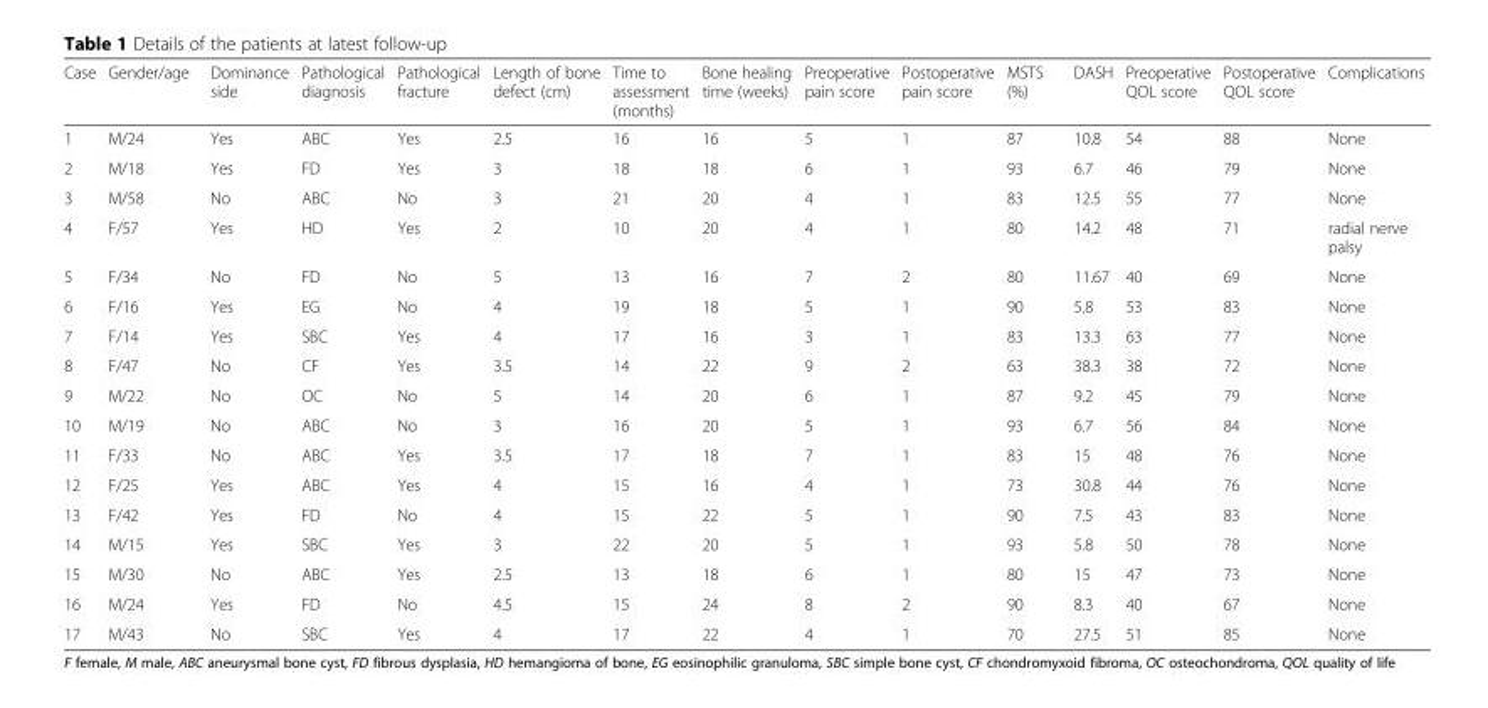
<table><thead><tr><td>Case</td><td>Gender/age</td><td>Dominance side</td><td>Pathological diagnosis</td><td>Pathological fracture</td><td>Length of bone defect (cm)</td><td>Time to assessment (months)</td><td>Bone healing time (weeks)</td><td>Preoperative pain score</td><td>Postoperative pain score</td><td>MSTS (%)</td><td>DASH</td><td>Preoperative QOL score</td><td>Postoperative QOL score</td><td>Complications</td></tr></thead><tbody><tr><td>1</td><td>M/24</td><td>Yes</td><td>ABC</td><td>Yes</td><td>2.5</td><td>16</td><td>16</td><td>5</td><td>1</td><td>87</td><td>10.8</td><td>54</td><td>88</td><td>None</td></tr><tr><td>2</td><td>M/18</td><td>Yes</td><td>FD</td><td>Yes</td><td>3</td><td>18</td><td>18</td><td>6</td><td>1</td><td>93</td><td>6.7</td><td>46</td><td>79</td><td>None</td></tr><tr><td>3</td><td>M/58</td><td>No</td><td>ABC</td><td>No</td><td>3</td><td>21</td><td>20</td><td>4</td><td>1</td><td>83</td><td>12.5</td><td>55</td><td>77</td><td>None</td></tr><tr><td>4</td><td>F/57</td><td>Yes</td><td>HD</td><td>Yes</td><td>2</td><td>10</td><td>20</td><td>4</td><td>1</td><td>80</td><td>14.2</td><td>48</td><td>71</td><td>radial nerve palsy</td></tr><tr><td>5</td><td>F/34</td><td>No</td><td>FD</td><td>No</td><td>5</td><td>13</td><td>16</td><td>7</td><td>2</td><td>80</td><td>11.67</td><td>40</td><td>69</td><td>None</td></tr><tr><td>6</td><td>F/16</td><td>Yes</td><td>EG</td><td>No</td><td>4</td><td>19</td><td>18</td><td>5</td><td>1</td><td>90</td><td>5.8</td><td>53</td><td>83</td><td>None</td></tr><tr><td>7</td><td>F/14</td><td>Yes</td><td>SBC</td><td>Yes</td><td>4</td><td>17</td><td>16</td><td>3</td><td>1</td><td>83</td><td>13.3</td><td>63</td><td>77</td><td>None</td></tr><tr><td>8</td><td>F/47</td><td>No</td><td>CF</td><td>Yes</td><td>3.5</td><td>14</td><td>22</td><td>9</td><td>2</td><td>63</td><td>38.3</td><td>38</td><td>72</td><td>None</td></tr><tr><td>9</td><td>M/22</td><td>No</td><td>OC</td><td>No</td><td>5</td><td>14</td><td>20</td><td>6</td><td>1</td><td>87</td><td>9.2</td><td>45</td><td>79</td><td>None</td></tr><tr><td>10</td><td>M/19</td><td>No</td><td>ABC</td><td>No</td><td>3</td><td>16</td><td>20</td><td>5</td><td>1</td><td>93</td><td>6.7</td><td>56</td><td>84</td><td>None</td></tr><tr><td>11</td><td>F/33</td><td>No</td><td>ABC</td><td>Yes</td><td>3.5</td><td>17</td><td>18</td><td>7</td><td>1</td><td>83</td><td>15</td><td>48</td><td>76</td><td>None</td></tr><tr><td>12</td><td>F/25</td><td>Yes</td><td>ABC</td><td>Yes</td><td>4</td><td>15</td><td>16</td><td>4</td><td>1</td><td>73</td><td>30.8</td><td>44</td><td>76</td><td>None</td></tr><tr><td>13</td><td>F/42</td><td>Yes</td><td>FD</td><td>No</td><td>4</td><td>15</td><td>22</td><td>5</td><td>1</td><td>90</td><td>7.5</td><td>43</td><td>83</td><td>None</td></tr><tr><td>14</td><td>M/15</td><td>Yes</td><td>SBC</td><td>Yes</td><td>3</td><td>22</td><td>20</td><td>5</td><td>1</td><td>93</td><td>5.8</td><td>50</td><td>78</td><td>None</td></tr><tr><td>15</td><td>M/30</td><td>No</td><td>ABC</td><td>Yes</td><td>2.5</td><td>13</td><td>18</td><td>6</td><td>1</td><td>80</td><td>15</td><td>47</td><td>73</td><td>None</td></tr><tr><td>16</td><td>M/24</td><td>Yes</td><td>FD</td><td>No</td><td>4.5</td><td>15</td><td>24</td><td>8</td><td>2</td><td>90</td><td>8.3</td><td>40</td><td>67</td><td>None</td></tr><tr><td>17</td><td>M/43</td><td>No</td><td>SBC</td><td>Yes</td><td>4</td><td>17</td><td>22</td><td>4</td><td>1</td><td>70</td><td>27.5</td><td>51</td><td>85</td><td>None</td></tr></tbody></table>